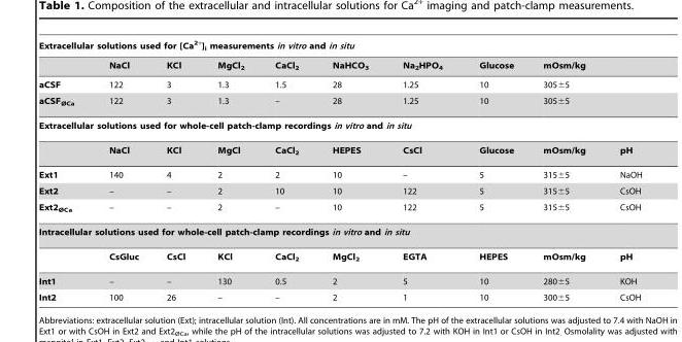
<table><thead><tr><td colspan="10">Extracellular solutions used for [Ca<sup>2+</sup>]<sub>i</sub> measurements in vitro and in situ</td></tr><tr><td></td><td>NaCl</td><td>KCl</td><td>MgCl<sub>2</sub></td><td>CaCl<sub>2</sub></td><td>NaHCO<sub>3</sub></td><td>Na<sub>2</sub>HPO<sub>4</sub></td><td>Glucose</td><td>mOsm/kg</td><td></td></tr></thead><tbody><tr><td>aCSF</td><td>122</td><td>3</td><td>1.3</td><td>1.5</td><td>28</td><td>1.25</td><td>10</td><td>305±5</td><td></td></tr><tr><td>aCSF<sub>ØCa</sub></td><td>122</td><td>3</td><td>1.3</td><td>–</td><td>28</td><td>1.25</td><td>10</td><td>305±5</td><td></td></tr><tr><td colspan="10">Extracellular solutions used for whole-cell patch-clamp recordings in vitro and in situ</td></tr><tr><td></td><td>NaCl</td><td>KCl</td><td>MgCl</td><td>CaCl<sub>2</sub></td><td>HEPES</td><td>CsCl</td><td>Glucose</td><td>mOsm/kg</td><td>pH</td></tr><tr><td>Ext1</td><td>140</td><td>4</td><td>2</td><td>2</td><td>10</td><td>–</td><td>5</td><td>315±5</td><td>NaOH</td></tr><tr><td>Ext2</td><td>–</td><td>–</td><td>2</td><td>10</td><td>10</td><td>122</td><td>5</td><td>315±5</td><td>CsOH</td></tr><tr><td>Ext2<sub>ØCa</sub></td><td>–</td><td>–</td><td>2</td><td>–</td><td>10</td><td>122</td><td>5</td><td>315±5</td><td>CsOH</td></tr><tr><td colspan="10">Intracellular solutions used for whole-cell patch-clamp recordings in vitro and in situ</td></tr><tr><td></td><td>CsGluc</td><td>CsCl</td><td>KCl</td><td>CaCl<sub>2</sub></td><td>MgCl<sub>2</sub></td><td>EGTA</td><td>HEPES</td><td>mOsm/kg</td><td>pH</td></tr><tr><td>Int1</td><td>–</td><td>–</td><td>130</td><td>0.5</td><td>2</td><td>5</td><td>10</td><td>280±5</td><td>KOH</td></tr><tr><td>Int2</td><td>100</td><td>26</td><td>–</td><td>–</td><td>2</td><td>1</td><td>10</td><td>300±5</td><td>CsOH</td></tr></tbody></table>